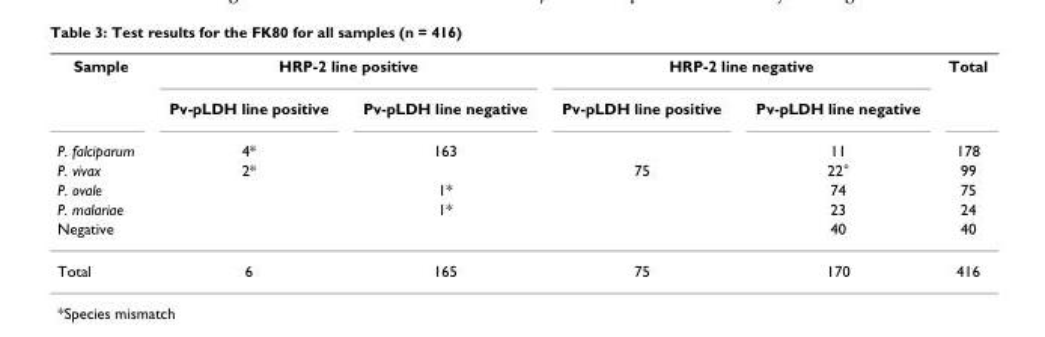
<table><thead><tr><td rowspan="7">Sample P. falciparum P. vivax P. ovale P. malariae Negative</td><td colspan="2">HRP-2 line positive</td><td colspan="2">HRP-2 line negative</td><td rowspan="7">Total 178 99 75 24 40</td></tr><tr><td rowspan="6">Pv-pLDH line positive 4* 2*</td><td rowspan="6">Pv-pLDH line negative 163 1* 1*</td><td rowspan="6">Pv-pLDH line positive 75</td><td rowspan="6">Pv-pLDH line negative 11 22° 74 23 40</td></tr><tr></tr><tr></tr><tr></tr><tr></tr><tr></tr></thead><tbody><tr><td>Total</td><td>6</td><td>165</td><td>75</td><td>170</td><td>416</td></tr></tbody></table>